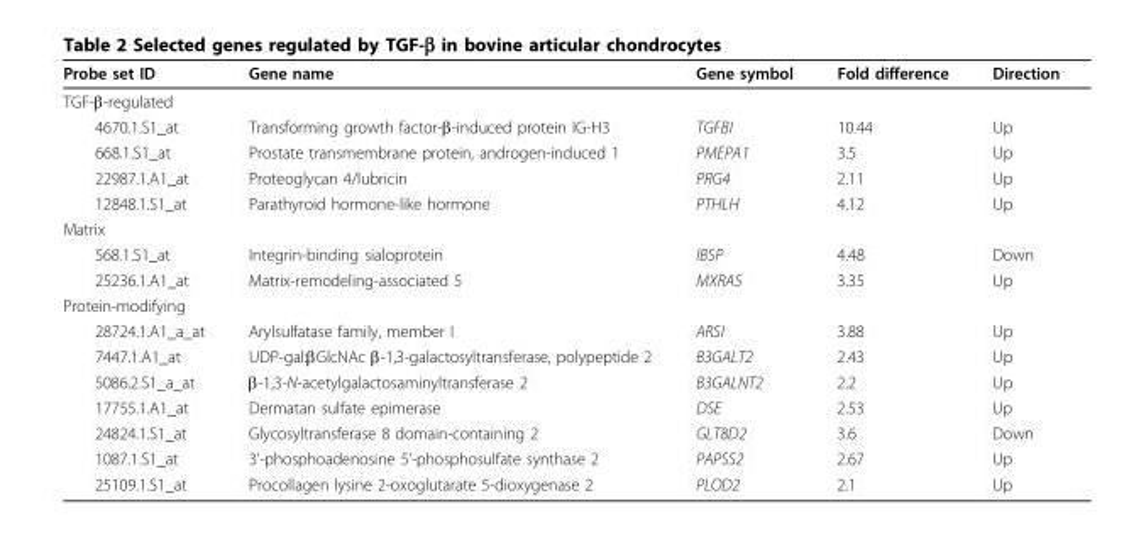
<table><thead><tr><td>Probe set ID</td><td>Gene name</td><td>Gene symbol</td><td>Fold difference</td><td>Direction</td></tr></thead><tbody><tr><td colspan="5">TGF-β-regulated</td></tr><tr><td>4670.1.S1_at</td><td>Transforming growth factor-β-induced protein IG-H3</td><td>TGFBI</td><td>10.44</td><td>Up</td></tr><tr><td>668.1.S1_at</td><td>Prostate transmembrane protein, androgen-induced 1</td><td>PMEPA1</td><td>3.5</td><td>Up</td></tr><tr><td>22987.1.A1_at</td><td>Proteoglycan 4/lubricin</td><td>PRG4</td><td>2.11</td><td>Up</td></tr><tr><td>12848.1.S1_at</td><td>Parathyroid hormone-like hormone</td><td>PTHLH</td><td>4.12</td><td>Up</td></tr><tr><td colspan="5">Matrix</td></tr><tr><td>568.1.S1_at</td><td>Integrin-binding sialoprotein</td><td>IBSP</td><td>4.48</td><td>Down</td></tr><tr><td>25236.1.A1_at</td><td>Matrix-remodeling-associated 5</td><td>MXRA5</td><td>3.35</td><td>Up</td></tr><tr><td colspan="5">Protein-modifying</td></tr><tr><td>28724.1.A1_a_at</td><td>Arylsulfatase family, member I</td><td>ARSI</td><td>3.88</td><td>Up</td></tr><tr><td>7447.1.A1_at</td><td>UDP-gal:βGlcNAc β-1,3-galactosyltransferase, polypeptide 2</td><td>B3GALT2</td><td>2.43</td><td>Up</td></tr><tr><td>5086.2.S1_a_at</td><td>β-1,3-N-acetylgalactosaminyltransferase 2</td><td>B3GALNT2</td><td>2.2</td><td>Up</td></tr><tr><td>17755.1.A1_at</td><td>Dermatan sulfate epimerase</td><td>DSE</td><td>2.53</td><td>Up</td></tr><tr><td>24824.1.S1_at</td><td>Glycosyltransferase 8 domain-containing 2</td><td>GLT8D2</td><td>3.6</td><td>Down</td></tr><tr><td>1087.1.S1_at</td><td>3’-phosphoadenosine 5’-phosphosulfate synthase 2</td><td>PAPSS2</td><td>2.67</td><td>Up</td></tr><tr><td>25109.1.S1_at</td><td>Procollagen lysine 2-oxoglutarate 5-dioxygenase 2</td><td>PLOD2</td><td>2.1</td><td>Up</td></tr></tbody></table>